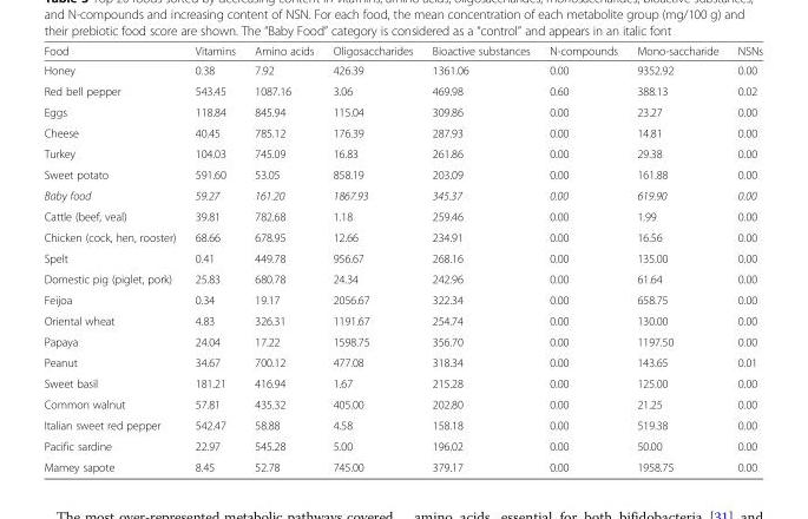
<table><thead><tr><td>Food</td><td>Vitamins</td><td>Amino acids</td><td>Oligosaccharides</td><td>Bioactive substances</td><td>N-compounds</td><td>Mono-saccharide</td><td>NSNs</td></tr></thead><tbody><tr><td>Honey</td><td>0.38</td><td>7.92</td><td>426.39</td><td>1361.06</td><td>0.00</td><td>9352.92</td><td>0.00</td></tr><tr><td>Red bell pepper</td><td>543.45</td><td>1087.16</td><td>3.06</td><td>469.98</td><td>0.60</td><td>388.13</td><td>0.02</td></tr><tr><td>Eggs</td><td>118.84</td><td>845.94</td><td>115.04</td><td>309.86</td><td>0.00</td><td>23.27</td><td>0.00</td></tr><tr><td>Cheese</td><td>40.45</td><td>785.12</td><td>176.39</td><td>287.93</td><td>0.00</td><td>14.81</td><td>0.00</td></tr><tr><td>Turkey</td><td>104.03</td><td>745.09</td><td>16.83</td><td>261.86</td><td>0.00</td><td>29.38</td><td>0.00</td></tr><tr><td>Sweet potato</td><td>591.60</td><td>53.05</td><td>858.19</td><td>203.09</td><td>0.00</td><td>161.88</td><td>0.00</td></tr><tr><td>Baby food</td><td>59.27</td><td>161.20</td><td>1867.93</td><td>345.37</td><td>0.00</td><td>619.90</td><td>0.00</td></tr><tr><td>Cattle (beef, veal)</td><td>39.81</td><td>782.68</td><td>1.18</td><td>259.46</td><td>0.00</td><td>1.99</td><td>0.00</td></tr><tr><td>Chicken (cock, hen, rooster)</td><td>68.66</td><td>678.95</td><td>12.66</td><td>234.91</td><td>0.00</td><td>16.56</td><td>0.00</td></tr><tr><td>Spelt</td><td>0.41</td><td>449.78</td><td>956.67</td><td>268.16</td><td>0.00</td><td>135.00</td><td>0.00</td></tr><tr><td>Domestic pig (piglet, pork)</td><td>25.83</td><td>680.78</td><td>24.34</td><td>242.96</td><td>0.00</td><td>61.64</td><td>0.00</td></tr><tr><td>Feijoa</td><td>0.34</td><td>19.17</td><td>2056.67</td><td>322.34</td><td>0.00</td><td>658.75</td><td>0.00</td></tr><tr><td>Oriental wheat</td><td>4.83</td><td>326.31</td><td>1191.67</td><td>254.74</td><td>0.00</td><td>130.00</td><td>0.00</td></tr><tr><td>Papaya</td><td>24.04</td><td>17.22</td><td>1598.75</td><td>356.70</td><td>0.00</td><td>1197.50</td><td>0.00</td></tr><tr><td>Peanut</td><td>34.67</td><td>700.12</td><td>477.08</td><td>318.34</td><td>0.00</td><td>143.65</td><td>0.01</td></tr><tr><td>Sweet basil</td><td>181.21</td><td>416.94</td><td>1.67</td><td>215.28</td><td>0.00</td><td>125.00</td><td>0.00</td></tr><tr><td>Common walnut</td><td>57.81</td><td>435.32</td><td>405.00</td><td>202.80</td><td>0.00</td><td>21.25</td><td>0.00</td></tr><tr><td>Italian sweet red pepper</td><td>542.47</td><td>58.88</td><td>4.58</td><td>158.18</td><td>0.00</td><td>519.38</td><td>0.00</td></tr><tr><td>Pacific sardine</td><td>22.97</td><td>545.28</td><td>5.00</td><td>196.02</td><td>0.00</td><td>50.00</td><td>0.00</td></tr><tr><td>Mamey sapote</td><td>8.45</td><td>52.78</td><td>745.00</td><td>379.17</td><td>0.00</td><td>1958.75</td><td>0.00</td></tr></tbody></table>